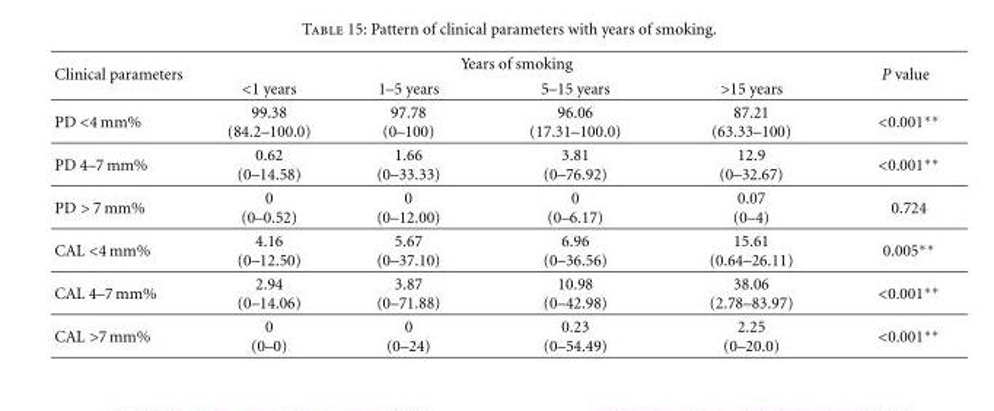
<table><thead><tr><td rowspan="2">Clinical parameters</td><td colspan="4">Years of smoking</td><td rowspan="2">P value</td></tr><tr><td>&lt;1 years</td><td>1–5 years</td><td>5–15 years</td><td>&gt;15 years</td></tr></thead><tbody><tr><td>PD &lt;4 mm%</td><td>99.38 (84.2–100.0)</td><td>97.78 (0–100)</td><td>96.06 (17.31–100.0)</td><td>87.21 (63.33–100)</td><td>&lt;0.001∗∗</td></tr><tr><td>PD 4–7 mm%</td><td>0.62 (0–14.58)</td><td>1.66 (0–33.33)</td><td>3.81 (0–76.92)</td><td>12.9 (0–32.67)</td><td>&lt;0.001∗∗</td></tr><tr><td>PD &gt; 7 mm%</td><td>0 (0–0.52)</td><td>0 (0–12.00)</td><td>0 (0–6.17)</td><td>0.07 (0–4)</td><td>0.724</td></tr><tr><td>CAL &lt;4 mm%</td><td>4.16 (0–12.50)</td><td>5.67 (0–37.10)</td><td>6.96 (0–36.56)</td><td>15.61 (0.64–26.11)</td><td>0.005∗∗</td></tr><tr><td>CAL 4–7 mm%</td><td>2.94 (0–14.06)</td><td>3.87 (0–71.88)</td><td>10.98 (0–42.98)</td><td>38.06 (2.78–83.97)</td><td>&lt;0.001∗∗</td></tr><tr><td>CAL &gt;7 mm%</td><td>0 (0–0)</td><td>0 (0–24)</td><td>0.23 (0–54.49)</td><td>2.25 (0–20.0)</td><td>&lt;0.001∗∗</td></tr></tbody></table>